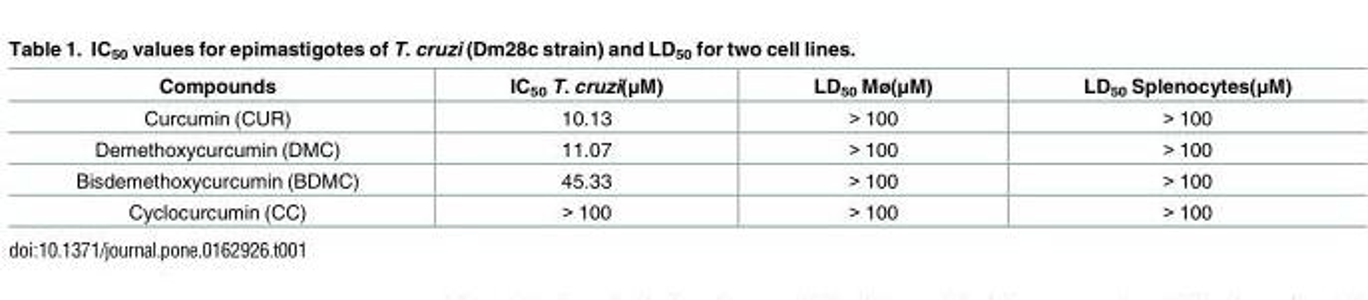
<table><thead><tr><td>Compounds</td><td>IC<sub>50</sub> T. cruzi(μM)</td><td>LD<sub>50</sub> Mø(μM)</td><td>LD<sub>50</sub> Splenocytes(μM)</td></tr></thead><tbody><tr><td>Curcumin (CUR)</td><td>10.13</td><td>&gt; 100</td><td>&gt; 100</td></tr><tr><td>Demethoxycurcumin (DMC)</td><td>11.07</td><td>&gt; 100</td><td>&gt; 100</td></tr><tr><td>Bisdemethoxycurcumin (BDMC)</td><td>45.33</td><td>&gt; 100</td><td>&gt; 100</td></tr><tr><td>Cyclocurcumin (CC)</td><td>&gt; 100</td><td>&gt; 100</td><td>&gt; 100</td></tr></tbody></table>